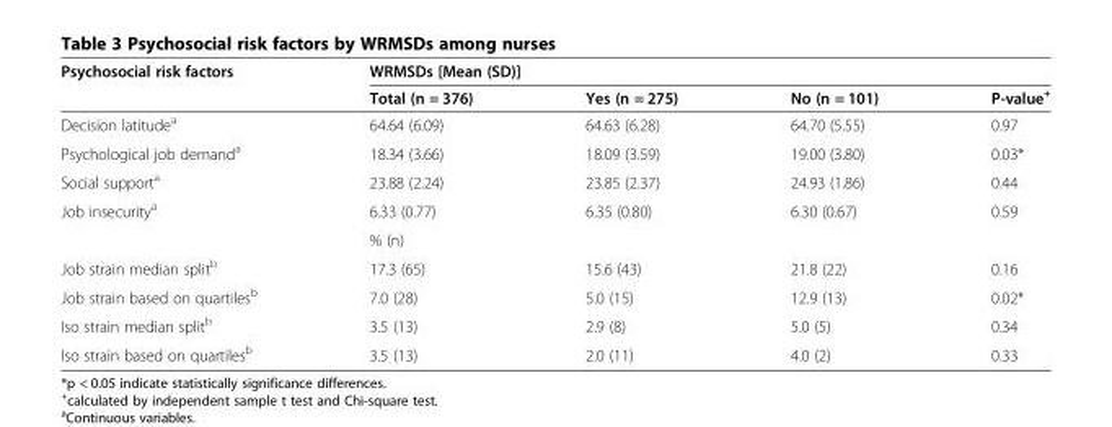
<table><thead><tr><td rowspan="2">Psychosocial risk factors</td><td colspan="4">WRMSDs [Mean (SD)]</td></tr><tr><td>Total (n = 376)</td><td>Yes (n = 275)</td><td>No (n = 101)</td><td>P-value<sup>+</sup></td></tr></thead><tbody><tr><td>Decision latitude<sup>a</sup></td><td>64.64 (6.09)</td><td>64.63 (6.28)</td><td>64.70 (5.55)</td><td>0.97</td></tr><tr><td>Psychological job demand<sup>a</sup></td><td>18.34 (3.66)</td><td>18.09 (3.59)</td><td>19.00 (3.80)</td><td>0.03*</td></tr><tr><td>Social support<sup>a</sup></td><td>23.88 (2.24)</td><td>23.85 (2.37)</td><td>24.93 (1.86)</td><td>0.44</td></tr><tr><td rowspan="2">Job insecurity<sup>a</sup></td><td>6.33 (0.77)</td><td>6.35 (0.80)</td><td>6.30 (0.67)</td><td>0.59</td></tr><tr><td>% (n)</td><td></td><td></td><td></td></tr><tr><td>Job strain median split<sup>b</sup></td><td>17.3 (65)</td><td>15.6 (43)</td><td>21.8 (22)</td><td>0.16</td></tr><tr><td>Job strain based on quartiles<sup>b</sup></td><td>7.0 (28)</td><td>5.0 (15)</td><td>12.9 (13)</td><td>0.02*</td></tr><tr><td>Iso strain median split<sup>b</sup></td><td>3.5 (13)</td><td>2.9 (8)</td><td>5.0 (5)</td><td>0.34</td></tr><tr><td>Iso strain based on quartiles<sup>b</sup></td><td>3.5 (13)</td><td>2.0 (11)</td><td>4.0 (2)</td><td>0.33</td></tr></tbody></table>